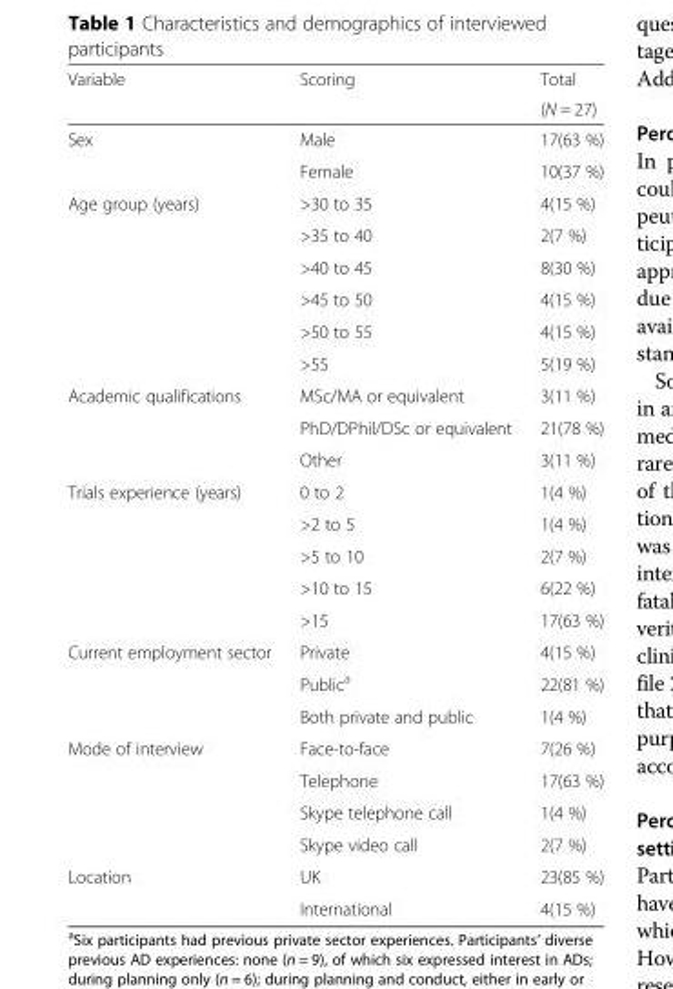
<table><thead><tr><td rowspan="2">Variable</td><td rowspan="2">Scoring</td><td rowspan="2">Total (N = 27)</td></tr><tr></tr></thead><tbody><tr><td rowspan="2">Sex</td><td>Male</td><td>17(63 %)</td></tr><tr><td>Female</td><td>10(37 %)</td></tr><tr><td rowspan="6">Age group (years)</td><td>&gt;30 to 35</td><td>4(15 %)</td></tr><tr><td>&gt;35 to 40</td><td>2(7 %)</td></tr><tr><td>&gt;40 to 45</td><td>8(30 %)</td></tr><tr><td>&gt;45 to 50</td><td>4(15 %)</td></tr><tr><td>&gt;50 to 55</td><td>4(15 %)</td></tr><tr><td>&gt;55</td><td>5(19 %)</td></tr><tr><td rowspan="3">Academic qualifications</td><td>MSc/MA or equivalent</td><td>3(11 %)</td></tr><tr><td>PhD/DPhil/DSc or equivalent</td><td>21(78 %)</td></tr><tr><td>Other</td><td>3(11 %)</td></tr><tr><td rowspan="5">Trials experience (years)</td><td>0 to 2</td><td>1(4 %)</td></tr><tr><td>&gt;2 to 5</td><td>1(4 %)</td></tr><tr><td>&gt;5 to 10</td><td>2(7 %)</td></tr><tr><td>&gt;10 to 15</td><td>6(22 %)</td></tr><tr><td>&gt;15</td><td>17(63 %)</td></tr><tr><td rowspan="3">Current employment sector</td><td>Private</td><td>4(15 %)</td></tr><tr><td>Public<sup>a</sup></td><td>22(81 %)</td></tr><tr><td>Both private and public</td><td>1(4 %)</td></tr><tr><td rowspan="4">Mode of interview</td><td>Face-to-face</td><td>7(26 %)</td></tr><tr><td>Telephone</td><td>17(63 %)</td></tr><tr><td>Skype telephone call</td><td>1(4 %)</td></tr><tr><td>Skype video call</td><td>2(7 %)</td></tr><tr><td rowspan="2">Location</td><td>UK</td><td>23(85 %)</td></tr><tr><td>International</td><td>4(15 %)</td></tr></tbody></table>